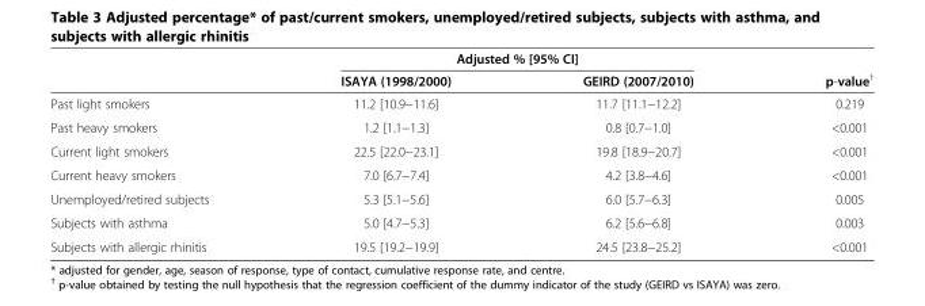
<table><thead><tr><td rowspan="2"></td><td colspan="2">Adjusted % [95% CI]</td><td rowspan="2">p-value<sup>†</sup></td></tr><tr><td>ISAYA (1998/2000)</td><td>GEIRD (2007/2010)</td></tr></thead><tbody><tr><td>Past light smokers</td><td>11.2 [10.9−11.6]</td><td>11.7 [11.1−12.2]</td><td>0.219</td></tr><tr><td>Past heavy smokers</td><td>1.2 [1.1−1.3]</td><td>0.8 [0.7−1.0]</td><td>&lt;0.001</td></tr><tr><td>Current light smokers</td><td>22.5 [22.0−23.1]</td><td>19.8 [18.9−20.7]</td><td>&lt;0.001</td></tr><tr><td>Current heavy smokers</td><td>7.0 [6.7−7.4]</td><td>4.2 [3.8−4.6]</td><td>&lt;0.001</td></tr><tr><td>Unemployed/retired subjects</td><td>5.3 [5.1−5.6]</td><td>6.0 [5.7−6.3]</td><td>0.005</td></tr><tr><td>Subjects with asthma</td><td>5.0 [4.7−5.3]</td><td>6.2 [5.6−6.8]</td><td>0.003</td></tr><tr><td>Subjects with allergic rhinitis</td><td>19.5 [19.2−19.9]</td><td>24.5 [23.8−25.2]</td><td>&lt;0.001</td></tr></tbody></table>